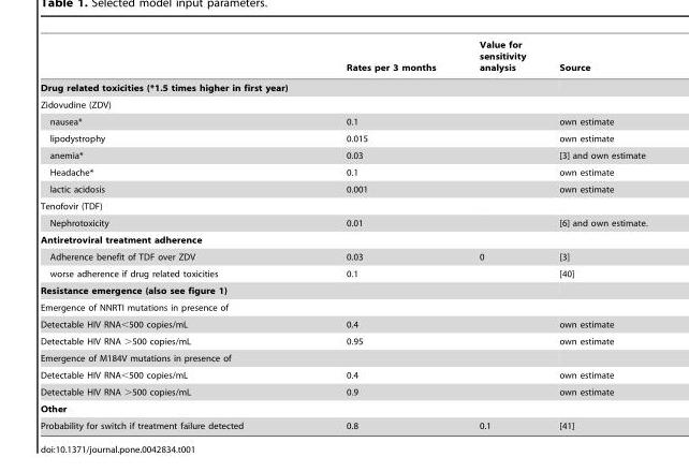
<table><thead><tr><td></td><td>Rates per 3 months</td><td>Value for sensitivity analysis</td><td>Source</td></tr></thead><tbody><tr><td colspan="4">Drug related toxicities (*1.5 times higher in first year)</td></tr><tr><td colspan="4">Zidovudine (ZDV)</td></tr><tr><td>nausea*</td><td>0.1</td><td></td><td>own estimate</td></tr><tr><td>lipodystrophy</td><td>0.015</td><td></td><td>own estimate</td></tr><tr><td>anemia*</td><td>0.03</td><td></td><td>[3] and own estimate</td></tr><tr><td>Headache*</td><td>0.1</td><td></td><td>own estimate</td></tr><tr><td>lactic acidosis</td><td>0.001</td><td></td><td>own estimate</td></tr><tr><td colspan="4">Tenofovir (TDF)</td></tr><tr><td>Nephrotoxicity</td><td>0.01</td><td></td><td>[6] and own estimate.</td></tr><tr><td colspan="4">Antiretroviral treatment adherence</td></tr><tr><td>Adherence benefit of TDF over ZDV</td><td>0.03</td><td>0</td><td>[3]</td></tr><tr><td>worse adherence if drug related toxicities</td><td>0.1</td><td></td><td>[40]</td></tr><tr><td colspan="4">Resistance emergence (also see figure 1)</td></tr><tr><td colspan="4">Emergence of NNRTI mutations in presence of</td></tr><tr><td>Detectable HIV RNA&lt;500 copies/mL</td><td>0.4</td><td></td><td>own estimate</td></tr><tr><td>Detectable HIV RNA &gt;500 copies/mL</td><td>0.95</td><td></td><td>own estimate</td></tr><tr><td colspan="4">Emergence of M184V mutations in presence of</td></tr><tr><td>Detectable HIV RNA&lt;500 copies/mL</td><td>0.4</td><td></td><td>own estimate</td></tr><tr><td>Detectable HIV RNA &gt;500 copies/mL</td><td>0.9</td><td></td><td>own estimate</td></tr><tr><td colspan="4">Other</td></tr><tr><td>Probability for switch if treatment failure detected</td><td>0.8</td><td>0.1</td><td>[41]</td></tr></tbody></table>